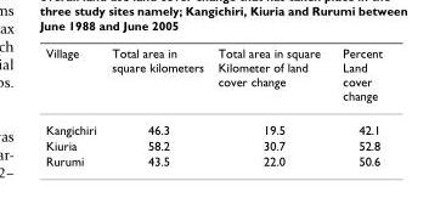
<table><thead><tr><td>Village</td><td>Total area in square kilometers</td><td>Total area in square Kilometer of land cover change</td><td>Percent Land cover change</td></tr></thead><tbody><tr><td>Kangichiri</td><td>46.3</td><td>19.5</td><td>42.1</td></tr><tr><td>Kiuria</td><td>58.2</td><td>30.7</td><td>52.8</td></tr><tr><td>Rurumi</td><td>43.5</td><td>22.0</td><td>50.6</td></tr></tbody></table>